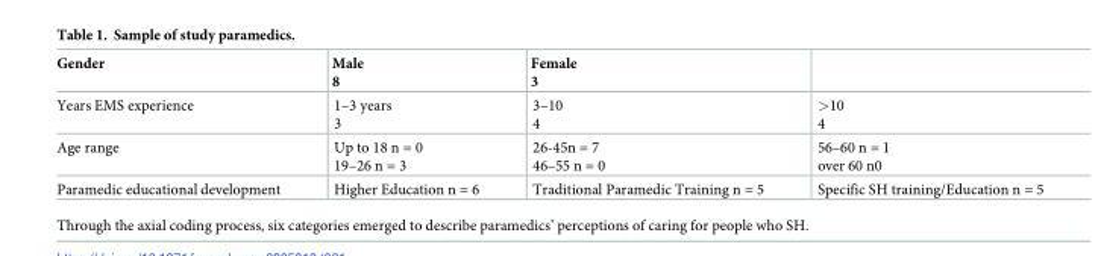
<table><thead><tr><td>Gender</td><td>Male 8</td><td>Female 3</td><td></td></tr></thead><tbody><tr><td>Years EMS experience</td><td>1–3 years 3</td><td>3–10 4</td><td>&gt;10 4</td></tr><tr><td>Age range</td><td>Up to 18 n = 0 19–26 n = 3</td><td>26-45n = 7 46–55 n = 0</td><td>56–60 n = 1 over 60 n0</td></tr><tr><td>Paramedic educational development</td><td>Higher Education n = 6</td><td>Traditional Paramedic Training n = 5</td><td>Specific SH training/Education n = 5</td></tr></tbody></table>